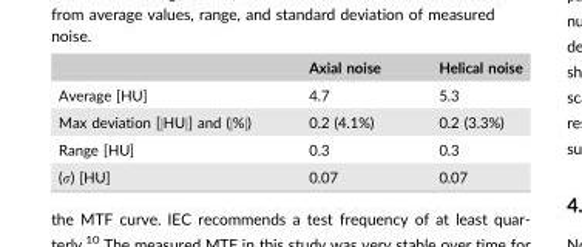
<table><thead><tr><td></td><td>Axial noise</td><td>Helical noise</td></tr></thead><tbody><tr><td>Average [HU]</td><td>4.7</td><td>5.3</td></tr><tr><td>Max deviation [|HU|] and (|%|)</td><td>0.2 (4.1%)</td><td>0.2 (3.3%)</td></tr><tr><td>Range [HU]</td><td>0.3</td><td>0.3</td></tr><tr><td>(σ) [HU]</td><td>0.07</td><td>0.07</td></tr></tbody></table>